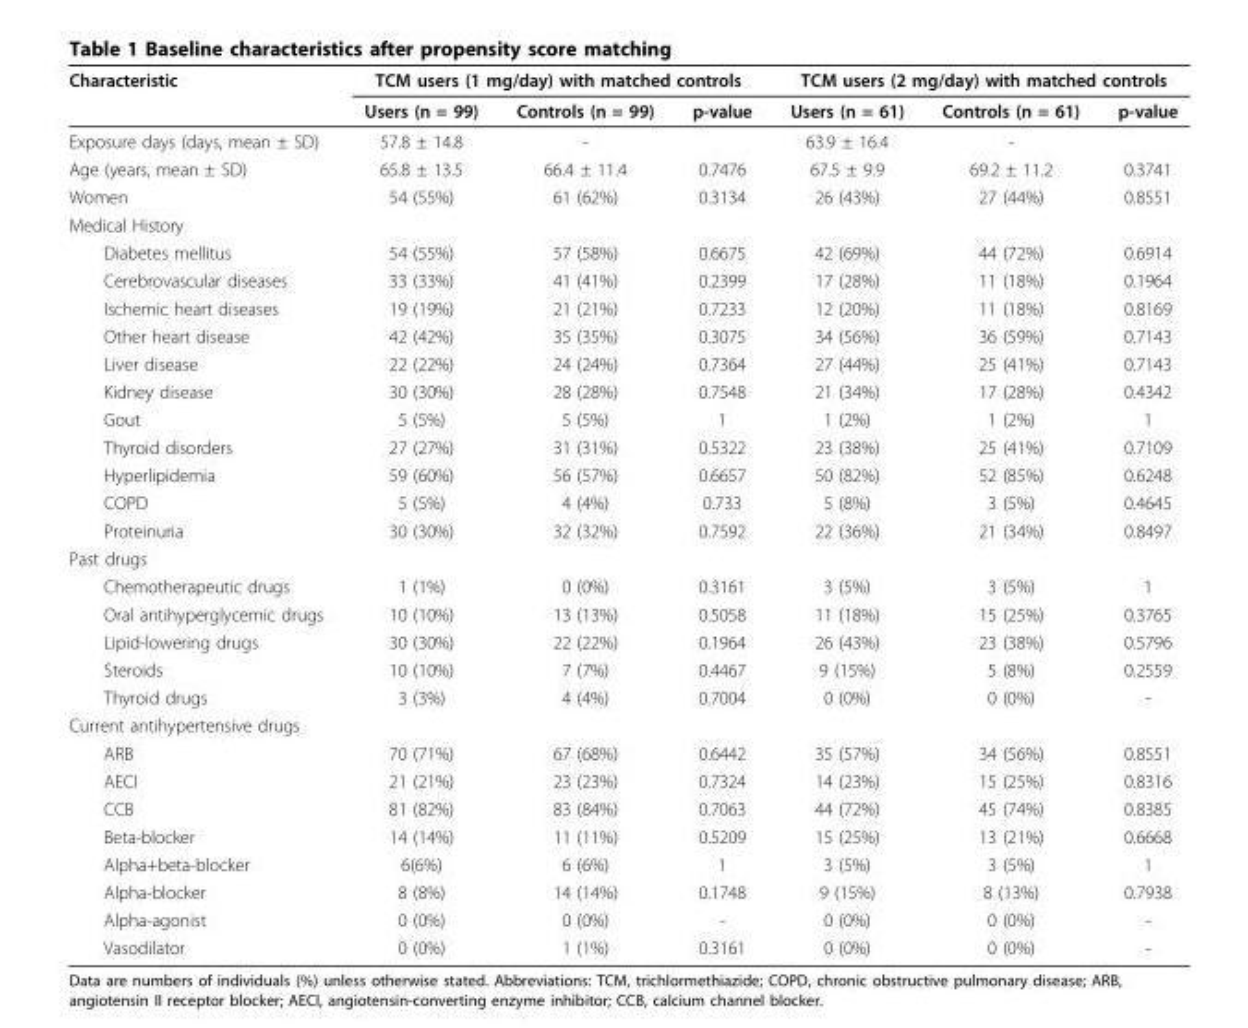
<table><thead><tr><td rowspan="2">Characteristic</td><td colspan="3">TCM users (1 mg/day) with matched controls</td><td colspan="3">TCM users (2 mg/day) with matched controls</td></tr><tr><td>Users (n = 99)</td><td>Controls (n = 99)</td><td>p-value</td><td>Users (n = 61)</td><td>Controls (n = 61)</td><td>p-value</td></tr></thead><tbody><tr><td>Exposure days (days, mean ± SD)</td><td>57.8 ± 14.8</td><td>-</td><td></td><td>63.9 ± 16.4</td><td>-</td><td></td></tr><tr><td>Age (years, mean ± SD)</td><td>65.8 ± 13.5</td><td>66.4 ± 11.4</td><td>0.7476</td><td>67.5 ± 9.9</td><td>69.2 ± 11.2</td><td>0.3741</td></tr><tr><td>Women</td><td>54 (55%)</td><td>61 (62%)</td><td>0.3134</td><td>26 (43%)</td><td>27 (44%)</td><td>0.8551</td></tr><tr><td colspan="7">Medical History</td></tr><tr><td>Diabetes mellitus</td><td>54 (55%)</td><td>57 (58%)</td><td>0.6675</td><td>42 (69%)</td><td>44 (72%)</td><td>0.6914</td></tr><tr><td>Cerebrovascular diseases</td><td>33 (33%)</td><td>41 (41%)</td><td>0.2399</td><td>17 (28%)</td><td>11 (18%)</td><td>0.1964</td></tr><tr><td>Ischemic heart diseases</td><td>19 (19%)</td><td>21 (21%)</td><td>0.7233</td><td>12 (20%)</td><td>11 (18%)</td><td>0.8169</td></tr><tr><td>Other heart disease</td><td>42 (42%)</td><td>35 (35%)</td><td>0.3075</td><td>34 (56%)</td><td>36 (59%)</td><td>0.7143</td></tr><tr><td>Liver disease</td><td>22 (22%)</td><td>24 (24%)</td><td>0.7364</td><td>27 (44%)</td><td>25 (41%)</td><td>0.7143</td></tr><tr><td>Kidney disease</td><td>30 (30%)</td><td>28 (28%)</td><td>0.7548</td><td>21 (34%)</td><td>17 (28%)</td><td>0.4342</td></tr><tr><td>Gout</td><td>5 (5%)</td><td>5 (5%)</td><td>1</td><td>1 (2%)</td><td>1 (2%)</td><td>1</td></tr><tr><td>Thyroid disorders</td><td>27 (27%)</td><td>31 (31%)</td><td>0.5322</td><td>23 (38%)</td><td>25 (41%)</td><td>0.7109</td></tr><tr><td>Hyperlipidemia</td><td>59 (60%)</td><td>56 (57%)</td><td>0.6657</td><td>50 (82%)</td><td>52 (85%)</td><td>0.6248</td></tr><tr><td>COPD</td><td>5 (5%)</td><td>4 (4%)</td><td>0.733</td><td>5 (8%)</td><td>3 (5%)</td><td>0.4645</td></tr><tr><td>Proteinuria</td><td>30 (30%)</td><td>32 (32%)</td><td>0.7592</td><td>22 (36%)</td><td>21 (34%)</td><td>0.8497</td></tr><tr><td colspan="7">Past drugs</td></tr><tr><td>Chemotherapeutic drugs</td><td>1 (1%)</td><td>0 (0%)</td><td>0.3161</td><td>3 (5%)</td><td>3 (5%)</td><td>1</td></tr><tr><td>Oral antihyperglycemic drugs</td><td>10 (10%)</td><td>13 (13%)</td><td>0.5058</td><td>11 (18%)</td><td>15 (25%)</td><td>0.3765</td></tr><tr><td>Lipid-lowering drugs</td><td>30 (30%)</td><td>22 (22%)</td><td>0.1964</td><td>26 (43%)</td><td>23 (38%)</td><td>0.5796</td></tr><tr><td>Steroids</td><td>10 (10%)</td><td>7 (7%)</td><td>0.4467</td><td>9 (15%)</td><td>5 (8%)</td><td>0.2559</td></tr><tr><td>Thyroid drugs</td><td>3 (3%)</td><td>4 (4%)</td><td>0.7004</td><td>0 (0%)</td><td>0 (0%)</td><td>-</td></tr><tr><td colspan="7">Current antihypertensive drugs</td></tr><tr><td>ARB</td><td>70 (71%)</td><td>67 (68%)</td><td>0.6442</td><td>35 (57%)</td><td>34 (56%)</td><td>0.8551</td></tr><tr><td>AECI</td><td>21 (21%)</td><td>23 (23%)</td><td>0.7324</td><td>14 (23%)</td><td>15 (25%)</td><td>0.8316</td></tr><tr><td>CCB</td><td>81 (82%)</td><td>83 (84%)</td><td>0.7063</td><td>44 (72%)</td><td>45 (74%)</td><td>0.8385</td></tr><tr><td>Beta-blocker</td><td>14 (14%)</td><td>11 (11%)</td><td>0.5209</td><td>15 (25%)</td><td>13 (21%)</td><td>0.6668</td></tr><tr><td>Alpha+beta-blocker</td><td>6(6%)</td><td>6 (6%)</td><td>1</td><td>3 (5%)</td><td>3 (5%)</td><td>1</td></tr><tr><td>Alpha-blocker</td><td>8 (8%)</td><td>14 (14%)</td><td>0.1748</td><td>9 (15%)</td><td>8 (13%)</td><td>0.7938</td></tr><tr><td>Alpha-agonist</td><td>0 (0%)</td><td>0 (0%)</td><td>-</td><td>0 (0%)</td><td>0 (0%)</td><td>-</td></tr><tr><td>Vasodilator</td><td>0 (0%)</td><td>1 (1%)</td><td>0.3161</td><td>0 (0%)</td><td>0 (0%)</td><td>-</td></tr></tbody></table>